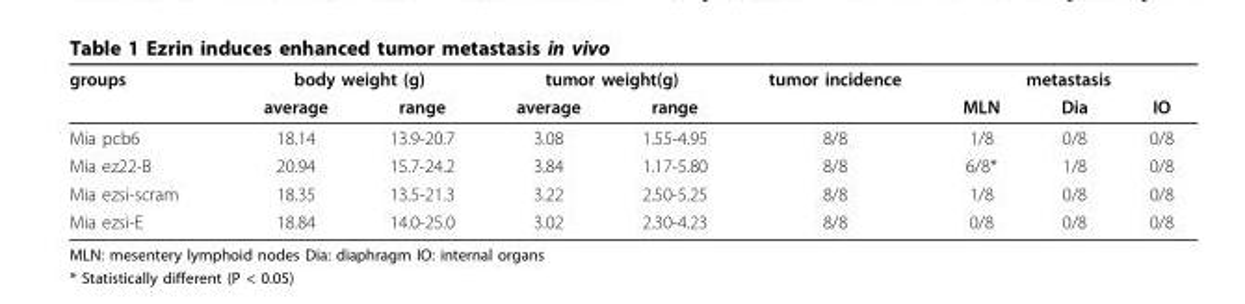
<table><thead><tr><td rowspan="2">groups</td><td colspan="2">body weight (g)</td><td colspan="2">tumor weight(g)</td><td rowspan="2">tumor incidence</td><td colspan="3">metastasis</td></tr><tr><td>average</td><td>range</td><td>average</td><td>range</td><td>MLN</td><td>Dia</td><td>IO</td></tr></thead><tbody><tr><td>Mia pcb6</td><td>18.14</td><td>13.9-20.7</td><td>3.08</td><td>1.55-4.95</td><td>8/8</td><td>1/8</td><td>0/8</td><td>0/8</td></tr><tr><td>Mia ez22-B</td><td>20.94</td><td>15.7-24.2</td><td>3.84</td><td>1.17-5.80</td><td>8/8</td><td>6/8*</td><td>1/8</td><td>0/8</td></tr><tr><td>Mia ezsi-scram</td><td>18.35</td><td>13.5-21.3</td><td>3.22</td><td>2.50-5.25</td><td>8/8</td><td>1/8</td><td>0/8</td><td>0/8</td></tr><tr><td>Mia ezsi-E</td><td>18.84</td><td>14.0-25.0</td><td>3.02</td><td>2.30-4.23</td><td>8/8</td><td>0/8</td><td>0/8</td><td>0/8</td></tr></tbody></table>